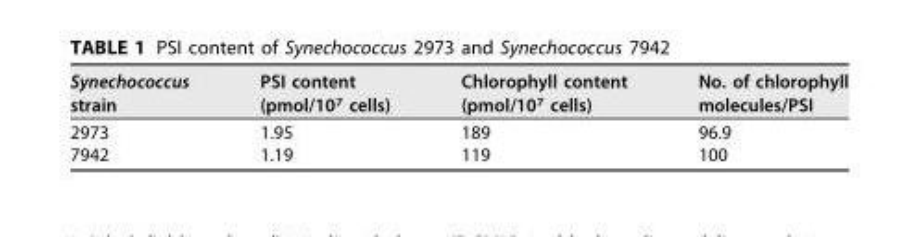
<table><thead><tr><td>Synechococcus strain</td><td>PSI content (pmol/10<sup>7</sup> cells)</td><td>Chlorophyll content (pmol/10<sup>7</sup> cells)</td><td>No. of chlorophyll molecules/PSI</td></tr></thead><tbody><tr><td>2973</td><td>1.95</td><td>189</td><td>96.9</td></tr><tr><td>7942</td><td>1.19</td><td>119</td><td>100</td></tr></tbody></table>